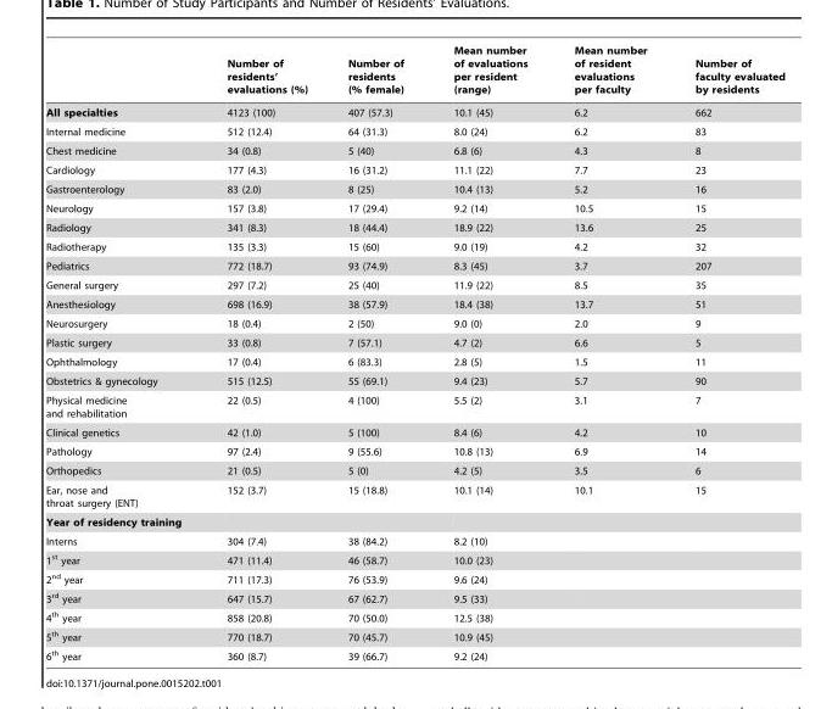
<table><thead><tr><td></td><td>Number of residents’ evaluations (%)</td><td>Number of residents (% female)</td><td>Mean number of evaluations per resident (range)</td><td>Mean number of resident evaluations per faculty</td><td>Number of faculty evaluated by residents</td></tr></thead><tbody><tr><td>All specialties</td><td>4123 (100)</td><td>407 (57.3)</td><td>10.1 (45)</td><td>6.2</td><td>662</td></tr><tr><td>Internal medicine</td><td>512 (12.4)</td><td>64 (31.3)</td><td>8.0 (24)</td><td>6.2</td><td>83</td></tr><tr><td>Chest medicine</td><td>34 (0.8)</td><td>5 (40)</td><td>6.8 (6)</td><td>4.3</td><td>8</td></tr><tr><td>Cardiology</td><td>177 (4.3)</td><td>16 (31.2)</td><td>11.1 (22)</td><td>7.7</td><td>23</td></tr><tr><td>Gastroenterology</td><td>83 (2.0)</td><td>8 (25)</td><td>10.4 (13)</td><td>5.2</td><td>16</td></tr><tr><td>Neurology</td><td>157 (3.8)</td><td>17 (29.4)</td><td>9.2 (14)</td><td>10.5</td><td>15</td></tr><tr><td>Radiology</td><td>341 (8.3)</td><td>18 (44.4)</td><td>18.9 (22)</td><td>13.6</td><td>25</td></tr><tr><td>Radiotherapy</td><td>135 (3.3)</td><td>15 (60)</td><td>9.0 (19)</td><td>4.2</td><td>32</td></tr><tr><td>Pediatrics</td><td>772 (18.7)</td><td>93 (74.9)</td><td>8.3 (45)</td><td>3.7</td><td>207</td></tr><tr><td>General surgery</td><td>297 (7.2)</td><td>25 (40)</td><td>11.9 (22)</td><td>8.5</td><td>35</td></tr><tr><td>Anesthesiology</td><td>698 (16.9)</td><td>38 (57.9)</td><td>18.4 (38)</td><td>13.7</td><td>51</td></tr><tr><td>Neurosurgery</td><td>18 (0.4)</td><td>2 (50)</td><td>9.0 (0)</td><td>2.0</td><td>9</td></tr><tr><td>Plastic surgery</td><td>33 (0.8)</td><td>7 (57.1)</td><td>4.7 (2)</td><td>6.6</td><td>5</td></tr><tr><td>Ophthalmology</td><td>17 (0.4)</td><td>6 (83.3)</td><td>2.8 (5)</td><td>1.5</td><td>11</td></tr><tr><td>Obstetrics &amp; gynecology</td><td>515 (12.5)</td><td>55 (69.1)</td><td>9.4 (23)</td><td>5.7</td><td>90</td></tr><tr><td>Physical medicine and rehabilitation</td><td>22 (0.5)</td><td>4 (100)</td><td>5.5 (2)</td><td>3.1</td><td>7</td></tr><tr><td>Clinical genetics</td><td>42 (1.0)</td><td>5 (100)</td><td>8.4 (6)</td><td>4.2</td><td>10</td></tr><tr><td>Pathology</td><td>97 (2.4)</td><td>9 (55.6)</td><td>10.8 (13)</td><td>6.9</td><td>14</td></tr><tr><td>Orthopedics</td><td>21 (0.5)</td><td>5 (0)</td><td>4.2 (5)</td><td>3.5</td><td>6</td></tr><tr><td>Ear, nose and throat surgery (ENT)</td><td>152 (3.7)</td><td>15 (18.8)</td><td>10.1 (14)</td><td>10.1</td><td>15</td></tr><tr><td colspan="6">Year of residency training</td></tr><tr><td>Interns</td><td>304 (7.4)</td><td>38 (84.2)</td><td>8.2 (10)</td><td></td><td></td></tr><tr><td>1<sup>st</sup> year</td><td>471 (11.4)</td><td>46 (58.7)</td><td>10.0 (23)</td><td></td><td></td></tr><tr><td>2<sup>nd</sup> year</td><td>711 (17.3)</td><td>76 (53.9)</td><td>9.6 (24)</td><td></td><td></td></tr><tr><td>3<sup>rd</sup> year</td><td>647 (15.7)</td><td>67 (62.7)</td><td>9.5 (33)</td><td></td><td></td></tr><tr><td>4<sup>th</sup> year</td><td>858 (20.8)</td><td>70 (50.0)</td><td>12.5 (38)</td><td></td><td></td></tr><tr><td>5<sup>th</sup> year</td><td>770 (18.7)</td><td>70 (45.7)</td><td>10.9 (45)</td><td></td><td></td></tr><tr><td>6<sup>th</sup> year</td><td>360 (8.7)</td><td>39 (66.7)</td><td>9.2 (24)</td><td></td><td></td></tr></tbody></table>